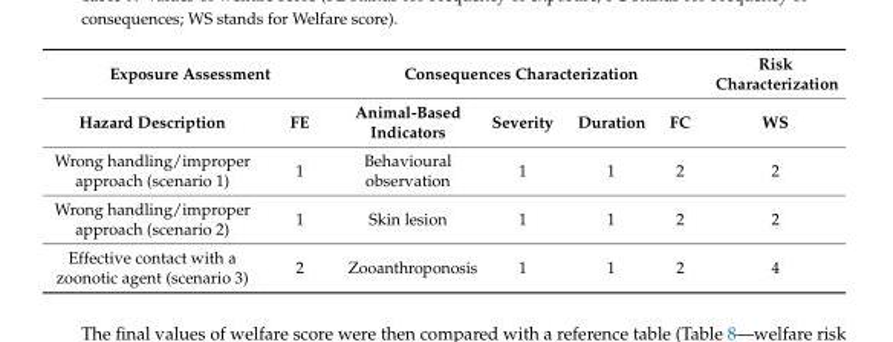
<table><thead><tr><td colspan="2">Exposure Assessment</td><td colspan="4">Consequences Characterization</td><td rowspan="2">Risk Characterization WS</td></tr><tr><td>Hazard Description</td><td>FE</td><td>Animal-Based Indicators</td><td>Severity</td><td>Duration</td><td>FC</td></tr></thead><tbody><tr><td>Wrong handling/improper approach (scenario 1)</td><td>1</td><td>Behavioural observation</td><td>1</td><td>1</td><td>2</td><td>2</td></tr><tr><td>Wrong handling/improper approach (scenario 2)</td><td>1</td><td>Skin lesion</td><td>1</td><td>1</td><td>2</td><td>2</td></tr><tr><td>Effective contact with a zoonotic agent (scenario 3)</td><td>2</td><td>Zooanthroponosis</td><td>1</td><td>1</td><td>2</td><td>4</td></tr></tbody></table>